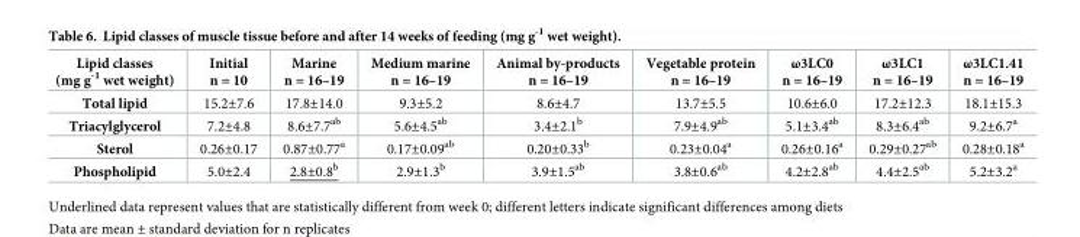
<table><thead><tr><td>Lipid classes (mg g<sup>-1</sup> wet weight)</td><td>Initial n = 10</td><td>Marine n = 16–19</td><td>Medium marine n = 16–19</td><td>Animal by-products n = 16–19</td><td>Vegetable protein n = 16–19</td><td>ω3LC0 n = 16–19</td><td>ω3LC1 n = 16–19</td><td>ω3LC1.41 n = 16–19</td></tr></thead><tbody><tr><td>Total lipid</td><td>15.2±7.6</td><td>17.8±14.0</td><td>9.3±5.2</td><td>8.6±4.7</td><td>13.7±5.5</td><td>10.6±6.0</td><td>17.2±12.3</td><td>18.1±15.3</td></tr><tr><td>Triacylglycerol</td><td>7.2±4.8</td><td>8.6±7.7<sup>ab</sup></td><td>5.6±4.5<sup>ab</sup></td><td>3.4±2.1<sup>b</sup></td><td>7.9±4.9<sup>ab</sup></td><td>5.1±3.4<sup>ab</sup></td><td>8.3±6.4<sup>ab</sup></td><td>9.2±6.7<sup>a</sup></td></tr><tr><td>Sterol</td><td>0.26±0.17</td><td>0.87±0.77<sup>a</sup></td><td>0.17±0.09<sup>ab</sup></td><td>0.20±0.33<sup>b</sup></td><td>0.23±0.04<sup>a</sup></td><td>0.26±0.16<sup>a</sup></td><td>0.29±0.27<sup>ab</sup></td><td>0.28±0.18<sup>a</sup></td></tr><tr><td>Phospholipid</td><td>5.0±2.4</td><td>2.8±0.8<sup>b</sup></td><td>2.9±1.3<sup>b</sup></td><td>3.9±1.5<sup>ab</sup></td><td>3.8±0.6<sup>ab</sup></td><td>4.2±2.8<sup>ab</sup></td><td>4.4±2.5<sup>ab</sup></td><td>5.2±3.2<sup>a</sup></td></tr></tbody></table>